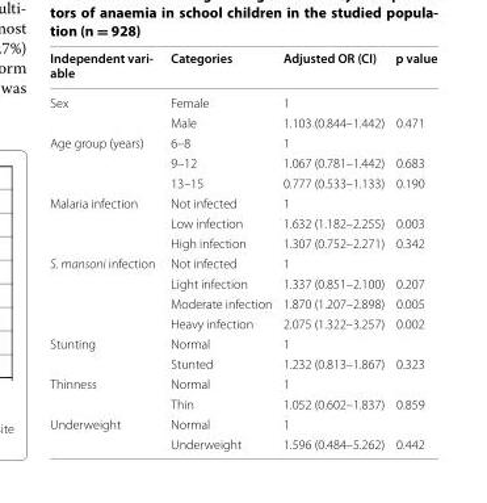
<table><thead><tr><td>Independent vari‑ able</td><td>Categories</td><td>Adjusted OR (CI)</td><td>p value</td></tr></thead><tbody><tr><td rowspan="2">Sex</td><td>Female</td><td>1</td><td></td></tr><tr><td>Male</td><td>1.103 (0.844–1.442)</td><td>0.471</td></tr><tr><td rowspan="3">Age group (years)</td><td>6–8</td><td>1</td><td></td></tr><tr><td>9–12</td><td>1.067 (0.781–1.442)</td><td>0.683</td></tr><tr><td>13–15</td><td>0.777 (0.533–1.133)</td><td>0.190</td></tr><tr><td rowspan="3">Malaria infection</td><td>Not infected</td><td>1</td><td></td></tr><tr><td>Low infection</td><td>1.632 (1.182–2.255)</td><td>0.003</td></tr><tr><td>High infection</td><td>1.307 (0.752–2.271)</td><td>0.342</td></tr><tr><td rowspan="4">S. mansoni infection</td><td>Not infected</td><td>1</td><td></td></tr><tr><td>Light infection</td><td>1.337 (0.851–2.100)</td><td>0.207</td></tr><tr><td>Moderate infection</td><td>1.870 (1.207–2.898)</td><td>0.005</td></tr><tr><td>Heavy infection</td><td>2.075 (1.322–3.257)</td><td>0.002</td></tr><tr><td rowspan="2">Stunting</td><td>Normal</td><td>1</td><td></td></tr><tr><td>Stunted</td><td>1.232 (0.813–1.867)</td><td>0.323</td></tr><tr><td rowspan="2">Thinness</td><td>Normal</td><td>1</td><td></td></tr><tr><td>Thin</td><td>1.052 (0.602–1.837)</td><td>0.859</td></tr><tr><td rowspan="2">Underweight</td><td>Normal</td><td>1</td><td></td></tr><tr><td>Underweight</td><td>1.596 (0.484–5.262)</td><td>0.442</td></tr></tbody></table>